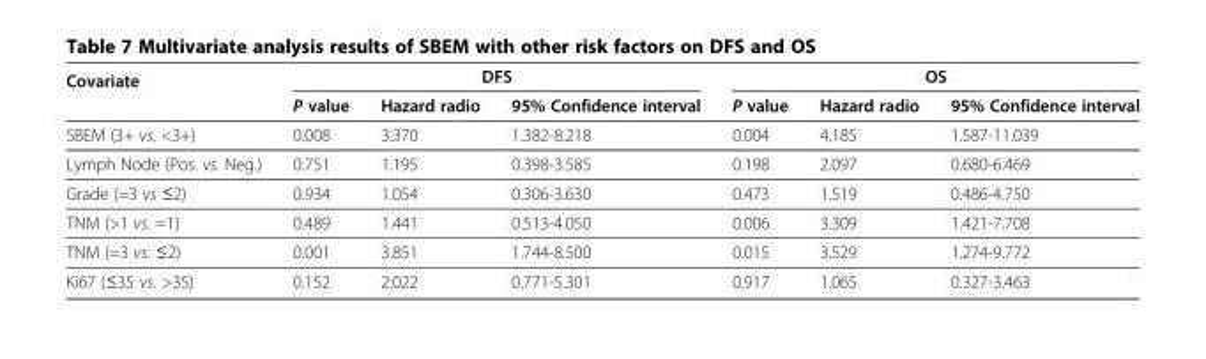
<table><thead><tr><td rowspan="2">Covariate</td><td colspan="3">DFS</td><td colspan="3">OS</td></tr><tr><td>P value</td><td>Hazard radio</td><td>95% Confidence interval</td><td>P value</td><td>Hazard radio</td><td>95% Confidence interval</td></tr></thead><tbody><tr><td>SBEM (3+ vs. &lt;3+)</td><td>0.008</td><td>3.370</td><td>1.382-8.218</td><td>0.004</td><td>4.185</td><td>1.587-11.039</td></tr><tr><td>Lymph Node (Pos. vs. Neg.)</td><td>0.751</td><td>1.195</td><td>0.398-3.585</td><td>0.198</td><td>2.097</td><td>0.680-6.469</td></tr><tr><td>Grade (=3 vs ≤2)</td><td>0.934</td><td>1.054</td><td>0.306-3.630</td><td>0.473</td><td>1.519</td><td>0.486-4.750</td></tr><tr><td>TNM (&gt;1 vs. =1)</td><td>0.489</td><td>1.441</td><td>0.513-4.050</td><td>0.006</td><td>3.309</td><td>1.421-7.708</td></tr><tr><td>TNM (=3 vs. ≤2)</td><td>0.001</td><td>3.851</td><td>1.744-8.500</td><td>0.015</td><td>3.529</td><td>1.274-9.772</td></tr><tr><td>Ki67 (≤35 vs. &gt;35)</td><td>0.152</td><td>2.022</td><td>0.771-5.301</td><td>0.917</td><td>1.065</td><td>0.327-3.463</td></tr></tbody></table>